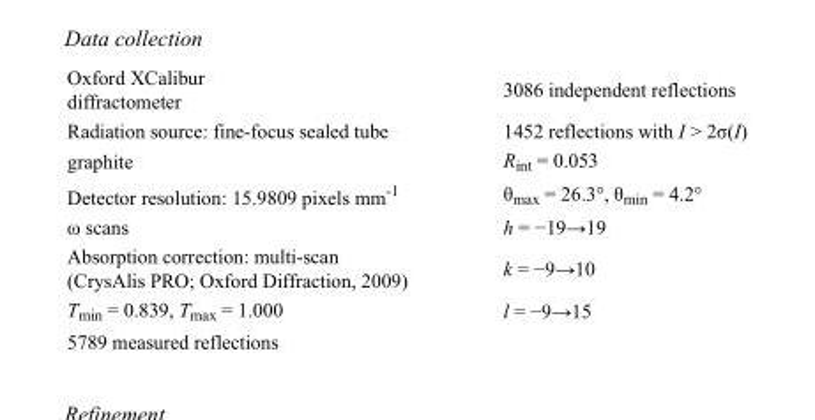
<table><tbody><tr><td>Oxford XCalibur diffractometer</td><td>3086 independent reflections</td></tr><tr><td>Radiation source: fine-focus sealed tube</td><td>1452 reflections with I &gt; 2σ(I)</td></tr><tr><td>graphite</td><td>R<sub>int</sub> = 0.053</td></tr><tr><td>Detector resolution: 15.9809 pixels mm<sup>-1</sup></td><td>θ<sub>max</sub> = 26.3°, θ<sub>min</sub> = 4.2°</td></tr><tr><td>ω scans</td><td>h = −19→19</td></tr><tr><td>Absorption correction: multi-scan (CrysAlis PRO; Oxford Diffraction, 2009)</td><td>k = −9→10</td></tr><tr><td>T<sub>min</sub> = 0.839, T<sub>max</sub> = 1.000</td><td>l = −9→15</td></tr><tr><td>5789 measured reflections</td><td></td></tr></tbody></table>